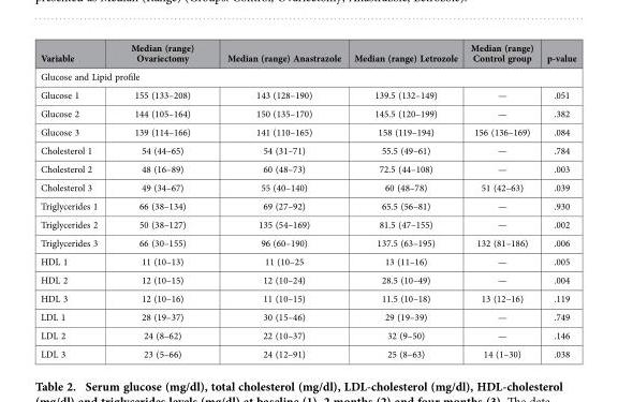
<table><thead><tr><td>Variable</td><td>Median (range) Ovariectomy</td><td>Median (range) Anastrazole</td><td>Median (range) Letrozole</td><td>Median (range) Control group</td><td>p-value</td></tr></thead><tbody><tr><td colspan="6">Glucose and Lipid profile</td></tr><tr><td>Glucose 1</td><td>155 (133–208)</td><td>143 (128–190)</td><td>139.5 (132–149)</td><td>—</td><td>.051</td></tr><tr><td>Glucose 2</td><td>144 (105–164)</td><td>150 (135–170)</td><td>145.5 (120–199)</td><td>—</td><td>.382</td></tr><tr><td>Glucose 3</td><td>139 (114–166)</td><td>141 (110–165)</td><td>158 (119–194)</td><td>156 (136–169)</td><td>.084</td></tr><tr><td>Cholesterol 1</td><td>54 (44–65)</td><td>54 (31–71)</td><td>55.5 (49–61)</td><td>—</td><td>.784</td></tr><tr><td>Cholesterol 2</td><td>48 (16–89)</td><td>60 (48–73)</td><td>72.5 (44–108)</td><td>—</td><td>.003</td></tr><tr><td>Cholesterol 3</td><td>49 (34–67)</td><td>55 (40–140)</td><td>60 (48–78)</td><td>51 (42–63)</td><td>.039</td></tr><tr><td>Triglycerides 1</td><td>66 (38–134)</td><td>69 (27–92)</td><td>65.5 (56–81)</td><td>—</td><td>.930</td></tr><tr><td>Triglycerides 2</td><td>50 (38–127)</td><td>135 (54–169)</td><td>81.5 (47–155)</td><td>—</td><td>.002</td></tr><tr><td>Triglycerides 3</td><td>66 (30–155)</td><td>96 (60–190)</td><td>137.5 (63–195)</td><td>132 (81–186)</td><td>.006</td></tr><tr><td>HDL 1</td><td>11 (10–13)</td><td>11 (10–25</td><td>13 (11–16)</td><td>—</td><td>.005</td></tr><tr><td>HDL 2</td><td>12 (10–15)</td><td>12 (10–24)</td><td>28.5 (10–49)</td><td>—</td><td>.004</td></tr><tr><td>HDL 3</td><td>12 (10–16)</td><td>11 (10–15)</td><td>11.5 (10–18)</td><td>13 (12–16)</td><td>.119</td></tr><tr><td>LDL 1</td><td>28 (19–37)</td><td>30 (15–46)</td><td>29 (19–39)</td><td>—</td><td>.749</td></tr><tr><td>LDL 2</td><td>24 (8–62)</td><td>22 (10–37)</td><td>32 (9–50)</td><td>—</td><td>.146</td></tr><tr><td>LDL 3</td><td>23 (5–66)</td><td>24 (12–91)</td><td>25 (8–63)</td><td>14 (1–30)</td><td>.038</td></tr></tbody></table>